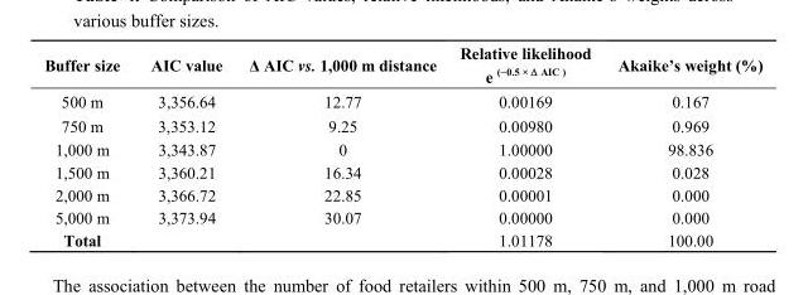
<table><thead><tr><td rowspan="2">Buffer size</td><td rowspan="2">AIC value</td><td rowspan="2">Δ AIC vs. 1,000 m distance</td><td rowspan="2">Relative likelihood e <sup>(−0.5 × Δ AIC )</sup></td><td rowspan="2">Akaike’s weight (%)</td></tr><tr></tr></thead><tbody><tr><td>500 m</td><td>3,356.64</td><td>12.77</td><td>0.00169</td><td>0.167</td></tr><tr><td>750 m</td><td>3,353.12</td><td>9.25</td><td>0.00980</td><td>0.969</td></tr><tr><td>1,000 m</td><td>3,343.87</td><td>0</td><td>1.00000</td><td>98.836</td></tr><tr><td>1,500 m</td><td>3,360.21</td><td>16.34</td><td>0.00028</td><td>0.028</td></tr><tr><td>2,000 m</td><td>3,366.72</td><td>22.85</td><td>0.00001</td><td>0.000</td></tr><tr><td>5,000 m</td><td>3,373.94</td><td>30.07</td><td>0.00000</td><td>0.000</td></tr><tr><td>Total</td><td></td><td></td><td>1.01178</td><td>100.00</td></tr></tbody></table>